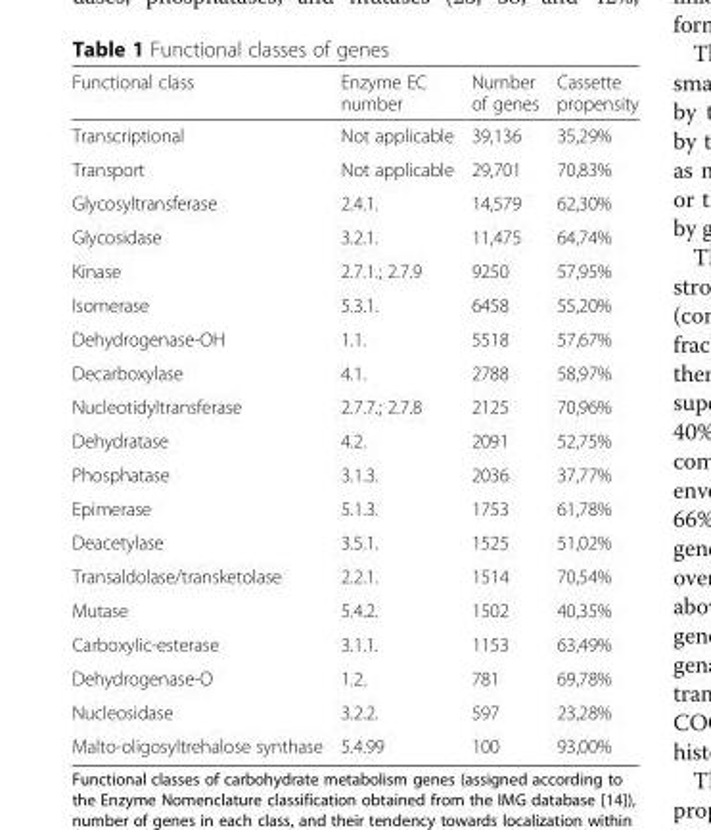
<table><thead><tr><td>Functional class</td><td>Enzyme EC number</td><td>Number of genes</td><td>Cassette propensity</td></tr></thead><tbody><tr><td>Transcriptional</td><td>Not applicable</td><td>39,136</td><td>35,29%</td></tr><tr><td>Transport</td><td>Not applicable</td><td>29,701</td><td>70,83%</td></tr><tr><td>Glycosyltransferase</td><td>2.4.1.</td><td>14,579</td><td>62,30%</td></tr><tr><td>Glycosidase</td><td>3.2.1.</td><td>11,475</td><td>64,74%</td></tr><tr><td>Kinase</td><td>2.7.1.; 2.7.9</td><td>9250</td><td>57,95%</td></tr><tr><td>Isomerase</td><td>5.3.1.</td><td>6458</td><td>55,20%</td></tr><tr><td>Dehydrogenase-OH</td><td>1.1.</td><td>5518</td><td>57,67%</td></tr><tr><td>Decarboxylase</td><td>4.1.</td><td>2788</td><td>58,97%</td></tr><tr><td>Nucleotidyltransferase</td><td>2.7.7.; 2.7.8</td><td>2125</td><td>70,96%</td></tr><tr><td>Dehydratase</td><td>4.2.</td><td>2091</td><td>52,75%</td></tr><tr><td>Phosphatase</td><td>3.1.3.</td><td>2036</td><td>37,77%</td></tr><tr><td>Epimerase</td><td>5.1.3.</td><td>1753</td><td>61,78%</td></tr><tr><td>Deacetylase</td><td>3.5.1.</td><td>1525</td><td>51,02%</td></tr><tr><td>Transaldolase/transketolase</td><td>2.2.1.</td><td>1514</td><td>70,54%</td></tr><tr><td>Mutase</td><td>5.4.2.</td><td>1502</td><td>40,35%</td></tr><tr><td>Carboxylic-esterase</td><td>3.1.1.</td><td>1153</td><td>63,49%</td></tr><tr><td>Dehydrogenase-O</td><td>1.2.</td><td>781</td><td>69,78%</td></tr><tr><td>Nucleosidase</td><td>3.2.2.</td><td>597</td><td>23,28%</td></tr><tr><td>Malto-oligosyltrehalose synthase</td><td>5.4.99</td><td>100</td><td>93,00%</td></tr></tbody></table>